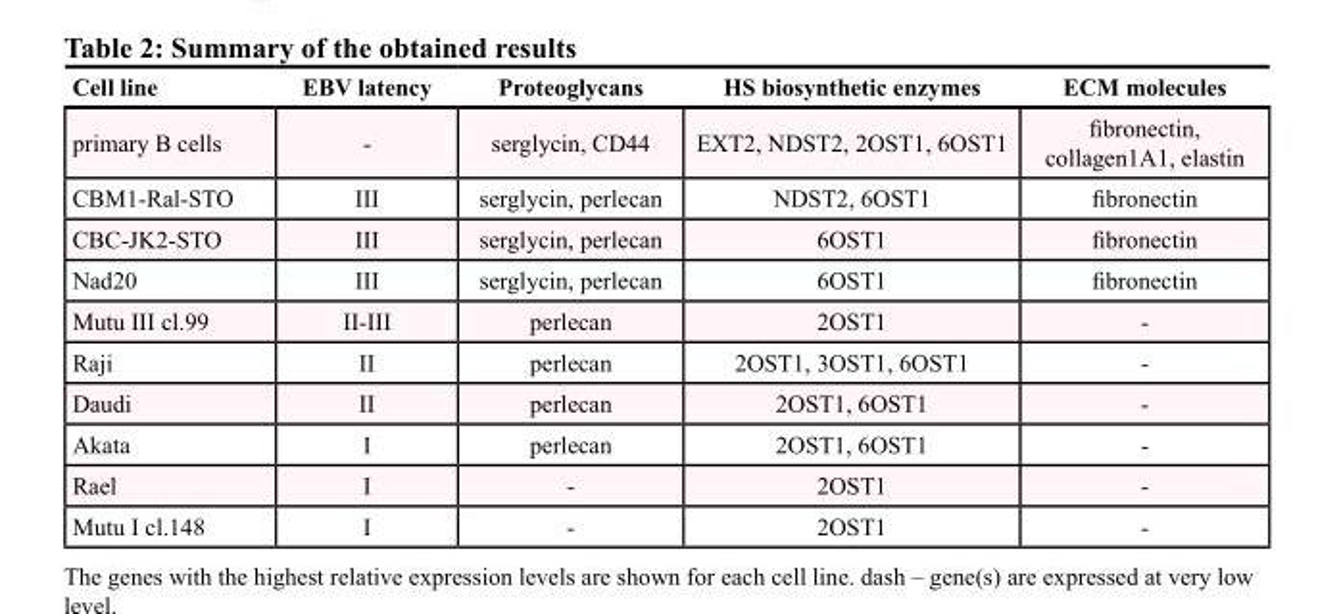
<table><thead><tr><td>Cell line</td><td>EBV latency</td><td>Proteoglycans</td><td>HS biosynthetic enzymes</td><td>ECM molecules</td></tr></thead><tbody><tr><td>primary B cells</td><td>-</td><td>serglycin, CD44</td><td>EXT2, NDST2, 2OST1, 6OST1</td><td>fibronectin, collagen1A1, elastin</td></tr><tr><td>CBM1-Ral-STO</td><td>III</td><td>serglycin, perlecan</td><td>NDST2, 6OST1</td><td>fibronectin</td></tr><tr><td>CBC-JK2-STO</td><td>III</td><td>serglycin, perlecan</td><td>6OST1</td><td>fibronectin</td></tr><tr><td>Nad20</td><td>III</td><td>serglycin, perlecan</td><td>6OST1</td><td>fibronectin</td></tr><tr><td>Mutu III cl.99</td><td>II-III</td><td>perlecan</td><td>2OST1</td><td>-</td></tr><tr><td>Raji</td><td>II</td><td>perlecan</td><td>2OST1, 3OST1, 6OST1</td><td>-</td></tr><tr><td>Daudi</td><td>II</td><td>perlecan</td><td>2OST1, 6OST1</td><td>-</td></tr><tr><td>Akata</td><td>I</td><td>perlecan</td><td>2OST1, 6OST1</td><td>-</td></tr><tr><td>Rael</td><td>I</td><td>-</td><td>2OST1</td><td>-</td></tr><tr><td>Mutu I cl.148</td><td>I</td><td>-</td><td>2OST1</td><td>-</td></tr></tbody></table>